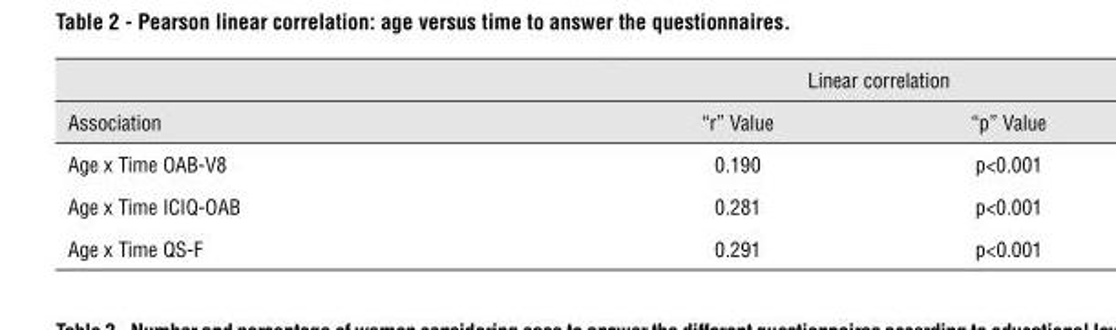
<table><thead><tr><td rowspan="2">Association</td><td colspan="2">Linear correlation</td></tr><tr><td>“r” Value</td><td>“p” Value</td></tr></thead><tbody><tr><td>Age x Time OAB-V8</td><td>0.190</td><td>p&lt;0.001</td></tr><tr><td>Age x Time ICIQ-OAB</td><td>0.281</td><td>p&lt;0.001</td></tr><tr><td>Age x Time QS-F</td><td>0.291</td><td>p&lt;0.001</td></tr></tbody></table>